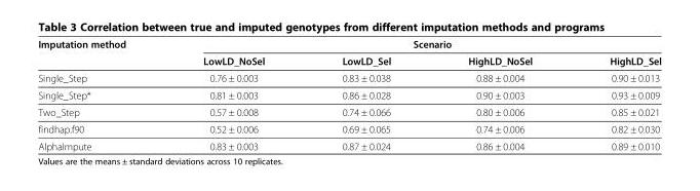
<table><thead><tr><td rowspan="2">Imputation method</td><td colspan="4">Scenario</td></tr><tr><td>LowLD_NoSel</td><td>LowLD_Sel</td><td>HighLD_NoSel</td><td>HighLD_Sel</td></tr></thead><tbody><tr><td>Single_Step</td><td>0.76 ± 0.003</td><td>0.83 ± 0.038</td><td>0.88 ± 0.004</td><td>0.90 ± 0.013</td></tr><tr><td>Single_Step*</td><td>0.81 ± 0.003</td><td>0.86 ± 0.028</td><td>0.90 ± 0.003</td><td>0.93 ± 0.009</td></tr><tr><td>Two_Step</td><td>0.57 ± 0.008</td><td>0.74 ± 0.066</td><td>0.80 ± 0.006</td><td>0.85 ± 0.021</td></tr><tr><td>findhap.f90</td><td>0.52 ± 0.006</td><td>0.69 ± 0.065</td><td>0.74 ± 0.006</td><td>0.82 ± 0.030</td></tr><tr><td>AlphaImpute</td><td>0.83 ± 0.003</td><td>0.87 ± 0.024</td><td>0.86 ± 0.004</td><td>0.89 ± 0.010</td></tr></tbody></table>